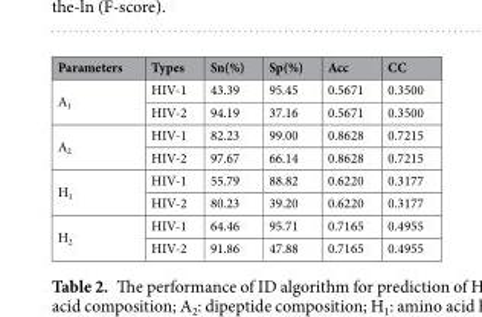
<table><thead><tr><td>Parameters</td><td>Types</td><td>Sn(%)</td><td>Sp(%)</td><td>Acc</td><td>CC</td></tr></thead><tbody><tr><td rowspan="2">A<sub>1</sub></td><td>HIV-1</td><td>43.39</td><td>95.45</td><td>0.5671</td><td>0.3500</td></tr><tr><td>HIV-2</td><td>94.19</td><td>37.16</td><td>0.5671</td><td>0.3500</td></tr><tr><td rowspan="2">A<sub>2</sub></td><td>HIV-1</td><td>82.23</td><td>99.00</td><td>0.8628</td><td>0.7215</td></tr><tr><td>HIV-2</td><td>97.67</td><td>66.14</td><td>0.8628</td><td>0.7215</td></tr><tr><td rowspan="2">H<sub>1</sub></td><td>HIV-1</td><td>55.79</td><td>88.82</td><td>0.6220</td><td>0.3177</td></tr><tr><td>HIV-2</td><td>80.23</td><td>39.20</td><td>0.6220</td><td>0.3177</td></tr><tr><td rowspan="2">H<sub>2</sub></td><td>HIV-1</td><td>64.46</td><td>95.71</td><td>0.7165</td><td>0.4955</td></tr><tr><td>HIV-2</td><td>91.86</td><td>47.88</td><td>0.7165</td><td>0.4955</td></tr></tbody></table>